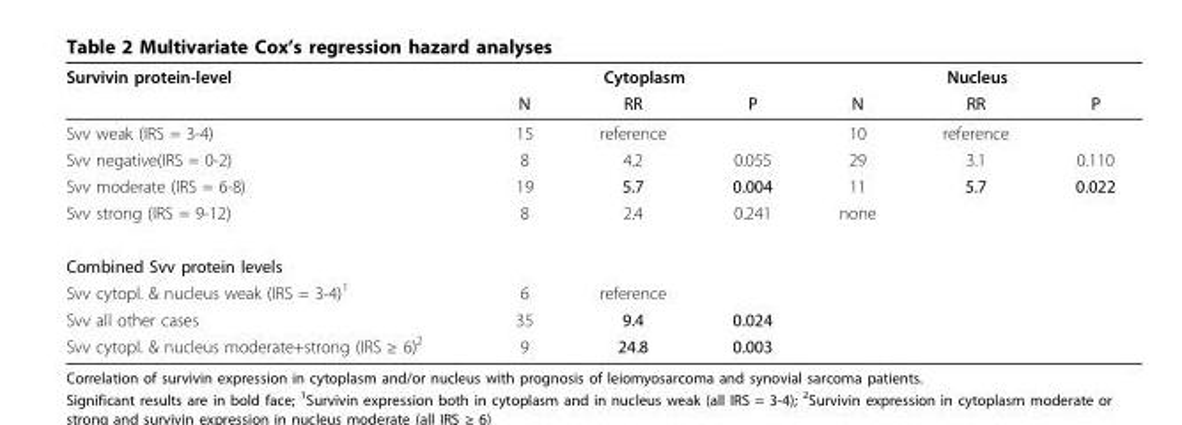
<table><thead><tr><td rowspan="2">Survivin protein-level</td><td colspan="3">Cytoplasm</td><td colspan="3">Nucleus</td></tr><tr><td>N</td><td>RR</td><td>P</td><td>N</td><td>RR</td><td>P</td></tr></thead><tbody><tr><td>Svv weak (IRS = 3-4)</td><td>15</td><td>reference</td><td></td><td>10</td><td>reference</td><td></td></tr><tr><td>Svv negative(IRS = 0-2)</td><td>8</td><td>4.2</td><td>0.055</td><td>29</td><td>3.1</td><td>0.110</td></tr><tr><td>Svv moderate (IRS = 6-8)</td><td>19</td><td>5.7</td><td>0.004</td><td>11</td><td>5.7</td><td>0.022</td></tr><tr><td>Svv strong (IRS = 9-12)</td><td>8</td><td>2.4</td><td>0.241</td><td>none</td><td></td><td></td></tr><tr><td colspan="7">Combined Svv protein levels</td></tr><tr><td>Svv cytopl. &amp; nucleus weak (IRS = 3-4)<sup>1</sup></td><td>6</td><td>reference</td><td></td><td></td><td></td><td></td></tr><tr><td>Svv all other cases</td><td>35</td><td>9.4</td><td>0.024</td><td></td><td></td><td></td></tr><tr><td>Svv cytopl. &amp; nucleus moderate+strong (IRS ≥ 6)<sup>2</sup></td><td>9</td><td>24.8</td><td>0.003</td><td></td><td></td><td></td></tr></tbody></table>